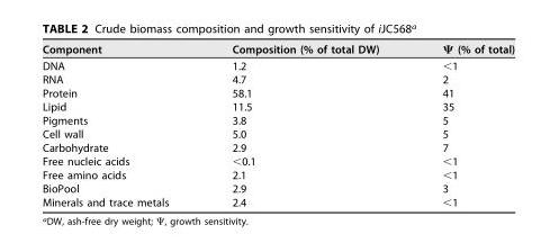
<table><thead><tr><td>Component</td><td>Composition (% of total DW)</td><td>Ψ (% of total)</td></tr></thead><tbody><tr><td>DNA</td><td>1.2</td><td>&lt;1</td></tr><tr><td>RNA</td><td>4.7</td><td>2</td></tr><tr><td>Protein</td><td>58.1</td><td>41</td></tr><tr><td>Lipid</td><td>11.5</td><td>35</td></tr><tr><td>Pigments</td><td>3.8</td><td>5</td></tr><tr><td>Cell wall</td><td>5.0</td><td>5</td></tr><tr><td>Carbohydrate</td><td>2.9</td><td>7</td></tr><tr><td>Free nucleic acids</td><td>&lt;0.1</td><td>&lt;1</td></tr><tr><td>Free amino acids</td><td>2.1</td><td>&lt;1</td></tr><tr><td>BioPool</td><td>2.9</td><td>3</td></tr><tr><td>Minerals and trace metals</td><td>2.4</td><td>&lt;1</td></tr></tbody></table>